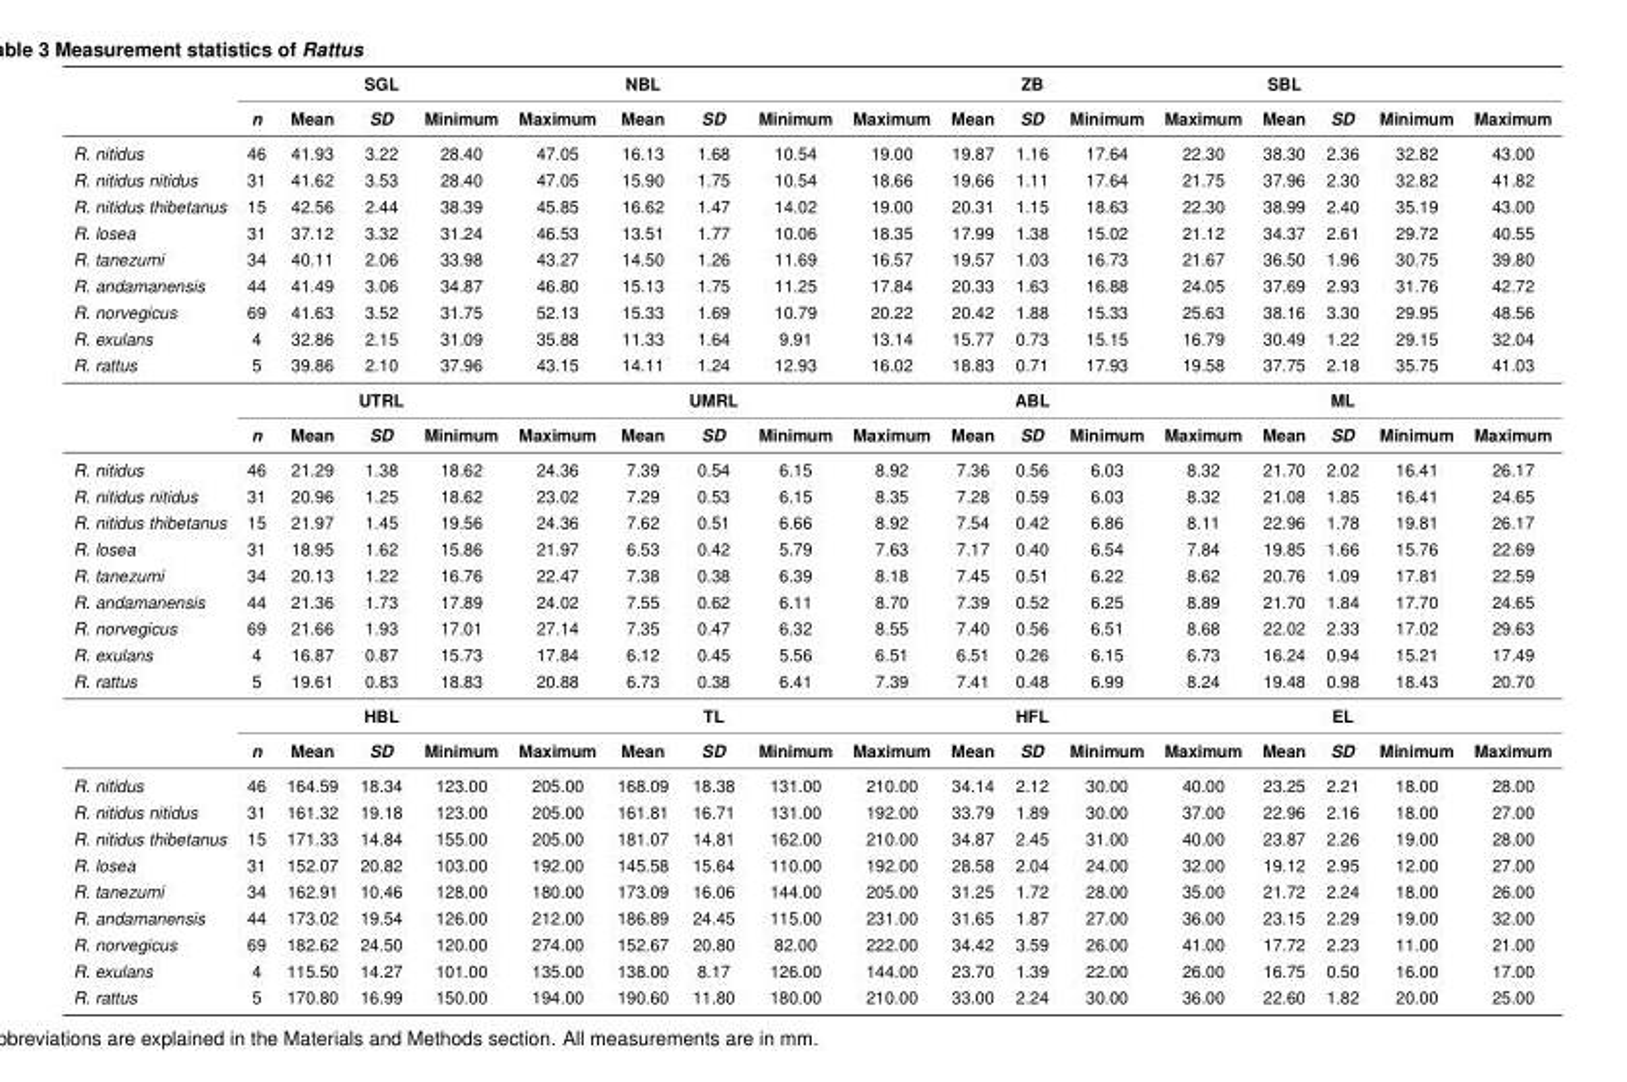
<table><thead><tr><td rowspan="2"></td><td rowspan="2">n</td><td colspan="4">SGL</td><td colspan="4">NBL</td><td colspan="4">ZB</td><td colspan="4">SBL</td></tr><tr><td>Mean</td><td>SD</td><td>Minimum</td><td>Maximum</td><td>Mean</td><td>SD</td><td>Minimum</td><td>Maximum</td><td>Mean</td><td>SD</td><td>Minimum</td><td>Maximum</td><td>Mean</td><td>SD</td><td>Minimum</td><td>Maximum</td></tr></thead><tbody><tr><td>R. nitidus</td><td>46</td><td>41.93</td><td>3.22</td><td>28.40</td><td>47.05</td><td>16.13</td><td>1.68</td><td>10.54</td><td>19.00</td><td>19.87</td><td>1.16</td><td>17.64</td><td>22.30</td><td>38.30</td><td>2.36</td><td>32.82</td><td>43.00</td></tr><tr><td>R. nitidus nitidus</td><td>31</td><td>41.62</td><td>3.53</td><td>28.40</td><td>47.05</td><td>15.90</td><td>1.75</td><td>10.54</td><td>18.66</td><td>19.66</td><td>1.11</td><td>17.64</td><td>21.75</td><td>37.96</td><td>2.30</td><td>32.82</td><td>41.82</td></tr><tr><td>R. nitidus thibetanus</td><td>15</td><td>42.56</td><td>2.44</td><td>38.39</td><td>45.85</td><td>16.62</td><td>1.47</td><td>14.02</td><td>19.00</td><td>20.31</td><td>1.15</td><td>18.63</td><td>22.30</td><td>38.99</td><td>2.40</td><td>35.19</td><td>43.00</td></tr><tr><td>R. losea</td><td>31</td><td>37.12</td><td>3.32</td><td>31.24</td><td>46.53</td><td>13.51</td><td>1.77</td><td>10.06</td><td>18.35</td><td>17.99</td><td>1.38</td><td>15.02</td><td>21.12</td><td>34.37</td><td>2.61</td><td>29.72</td><td>40.55</td></tr><tr><td>R. tanezumi</td><td>34</td><td>40.11</td><td>2.06</td><td>33.98</td><td>43.27</td><td>14.50</td><td>1.26</td><td>11.69</td><td>16.57</td><td>19.57</td><td>1.03</td><td>16.73</td><td>21.67</td><td>36.50</td><td>1.96</td><td>30.75</td><td>39.80</td></tr><tr><td>R. andamanensis</td><td>44</td><td>41.49</td><td>3.06</td><td>34.87</td><td>46.80</td><td>15.13</td><td>1.75</td><td>11.25</td><td>17.84</td><td>20.33</td><td>1.63</td><td>16.88</td><td>24.05</td><td>37.69</td><td>2.93</td><td>31.76</td><td>42.72</td></tr><tr><td>R. norvegicus</td><td>69</td><td>41.63</td><td>3.52</td><td>31.75</td><td>52.13</td><td>15.33</td><td>1.69</td><td>10.79</td><td>20.22</td><td>20.42</td><td>1.88</td><td>15.33</td><td>25.63</td><td>38.16</td><td>3.30</td><td>29.95</td><td>48.56</td></tr><tr><td>R. exulans</td><td>4</td><td>32.86</td><td>2.15</td><td>31.09</td><td>35.88</td><td>11.33</td><td>1.64</td><td>9.91</td><td>13.14</td><td>15.77</td><td>0.73</td><td>15.15</td><td>16.79</td><td>30.49</td><td>1.22</td><td>29.15</td><td>32.04</td></tr><tr><td rowspan="3">R. rattus</td><td>5</td><td>39.86</td><td>2.10</td><td>37.96</td><td>43.15</td><td>14.11</td><td>1.24</td><td>12.93</td><td>16.02</td><td>18.83</td><td>0.71</td><td>17.93</td><td>19.58</td><td>37.75</td><td>2.18</td><td>35.75</td><td>41.03</td></tr><tr><td></td><td colspan="4">UTRL</td><td colspan="4">UMRL</td><td colspan="4">ABL</td><td colspan="4">ML</td></tr><tr><td>n</td><td>Mean</td><td>SD</td><td>Minimum</td><td>Maximum</td><td>Mean</td><td>SD</td><td>Minimum</td><td>Maximum</td><td>Mean</td><td>SD</td><td>Minimum</td><td>Maximum</td><td>Mean</td><td>SD</td><td>Minimum</td><td>Maximum</td></tr><tr><td>R. nitidus</td><td>46</td><td>21.29</td><td>1.38</td><td>18.62</td><td>24.36</td><td>7.39</td><td>0.54</td><td>6.15</td><td>8.92</td><td>7.36</td><td>0.56</td><td>6.03</td><td>8.32</td><td>21.70</td><td>2.02</td><td>16.41</td><td>26.17</td></tr><tr><td>R. nitidus nitidus</td><td>31</td><td>20.96</td><td>1.25</td><td>18.62</td><td>23.02</td><td>7.29</td><td>0.53</td><td>6.15</td><td>8.35</td><td>7.28</td><td>0.59</td><td>6.03</td><td>8.32</td><td>21.08</td><td>1.85</td><td>16.41</td><td>24.65</td></tr><tr><td>R. nitidus thibetanus</td><td>15</td><td>21.97</td><td>1.45</td><td>19.56</td><td>24.36</td><td>7.62</td><td>0.51</td><td>6.66</td><td>8.92</td><td>7.54</td><td>0.42</td><td>6.86</td><td>8.11</td><td>22.96</td><td>1.78</td><td>19.81</td><td>26.17</td></tr><tr><td>R. losea</td><td>31</td><td>18.95</td><td>1.62</td><td>15.86</td><td>21.97</td><td>6.53</td><td>0.42</td><td>5.79</td><td>7.63</td><td>7.17</td><td>0.40</td><td>6.54</td><td>7.84</td><td>19.85</td><td>1.66</td><td>15.76</td><td>22.69</td></tr><tr><td>R. tanezumi</td><td>34</td><td>20.13</td><td>1.22</td><td>16.76</td><td>22.47</td><td>7.38</td><td>0.38</td><td>6.39</td><td>8.18</td><td>7.45</td><td>0.51</td><td>6.22</td><td>8.62</td><td>20.76</td><td>1.09</td><td>17.81</td><td>22.59</td></tr><tr><td>R. andamanensis</td><td>44</td><td>21.36</td><td>1.73</td><td>17.89</td><td>24.02</td><td>7.55</td><td>0.62</td><td>6.11</td><td>8.70</td><td>7.39</td><td>0.52</td><td>6.25</td><td>8.89</td><td>21.70</td><td>1.84</td><td>17.70</td><td>24.65</td></tr><tr><td>R. norvegicus</td><td>69</td><td>21.66</td><td>1.93</td><td>17.01</td><td>27.14</td><td>7.35</td><td>0.47</td><td>6.32</td><td>8.55</td><td>7.40</td><td>0.56</td><td>6.51</td><td>8.68</td><td>22.02</td><td>2.33</td><td>17.02</td><td>29.63</td></tr><tr><td>R. exulans</td><td>4</td><td>16.87</td><td>0.87</td><td>15.73</td><td>17.84</td><td>6.12</td><td>0.45</td><td>5.56</td><td>6.51</td><td>6.51</td><td>0.26</td><td>6.15</td><td>6.73</td><td>16.24</td><td>0.94</td><td>15.21</td><td>17.49</td></tr><tr><td rowspan="3">R. rattus</td><td>5</td><td>19.61</td><td>0.83</td><td>18.83</td><td>20.88</td><td>6.73</td><td>0.38</td><td>6.41</td><td>7.39</td><td>7.41</td><td>0.48</td><td>6.99</td><td>8.24</td><td>19.48</td><td>0.98</td><td>18.43</td><td>20.70</td></tr><tr><td></td><td colspan="4">HBL</td><td colspan="4">TL</td><td colspan="4">HFL</td><td colspan="4">EL</td></tr><tr><td>n</td><td>Mean</td><td>SD</td><td>Minimum</td><td>Maximum</td><td>Mean</td><td>SD</td><td>Minimum</td><td>Maximum</td><td>Mean</td><td>SD</td><td>Minimum</td><td>Maximum</td><td>Mean</td><td>SD</td><td>Minimum</td><td>Maximum</td></tr><tr><td>R. nitidus</td><td>46</td><td>164.59</td><td>18.34</td><td>123.00</td><td>205.00</td><td>168.09</td><td>18.38</td><td>131.00</td><td>210.00</td><td>34.14</td><td>2.12</td><td>30.00</td><td>40.00</td><td>23.25</td><td>2.21</td><td>18.00</td><td>28.00</td></tr><tr><td>R. nitidus nitidus</td><td>31</td><td>161.32</td><td>19.18</td><td>123.00</td><td>205.00</td><td>161.81</td><td>16.71</td><td>131.00</td><td>192.00</td><td>33.79</td><td>1.89</td><td>30.00</td><td>37.00</td><td>22.96</td><td>2.16</td><td>18.00</td><td>27.00</td></tr><tr><td>R. nitidus thibetanus</td><td>15</td><td>171.33</td><td>14.84</td><td>155.00</td><td>205.00</td><td>181.07</td><td>14.81</td><td>162.00</td><td>210.00</td><td>34.87</td><td>2.45</td><td>31.00</td><td>40.00</td><td>23.87</td><td>2.26</td><td>19.00</td><td>28.00</td></tr><tr><td>R. losea</td><td>31</td><td>152.07</td><td>20.82</td><td>103.00</td><td>192.00</td><td>145.58</td><td>15.64</td><td>110.00</td><td>192.00</td><td>28.58</td><td>2.04</td><td>24.00</td><td>32.00</td><td>19.12</td><td>2.95</td><td>12.00</td><td>27.00</td></tr><tr><td>R. tanezumi</td><td>34</td><td>162.91</td><td>10.46</td><td>128.00</td><td>180.00</td><td>173.09</td><td>16.06</td><td>144.00</td><td>205.00</td><td>31.25</td><td>1.72</td><td>28.00</td><td>35.00</td><td>21.72</td><td>2.24</td><td>18.00</td><td>26.00</td></tr><tr><td>R. andamanensis</td><td>44</td><td>173.02</td><td>19.54</td><td>126.00</td><td>212.00</td><td>186.89</td><td>24.45</td><td>115.00</td><td>231.00</td><td>31.65</td><td>1.87</td><td>27.00</td><td>36.00</td><td>23.15</td><td>2.29</td><td>19.00</td><td>32.00</td></tr><tr><td>R. norvegicus</td><td>69</td><td>182.62</td><td>24.50</td><td>120.00</td><td>274.00</td><td>152.67</td><td>20.80</td><td>82.00</td><td>222.00</td><td>34.42</td><td>3.59</td><td>26.00</td><td>41.00</td><td>17.72</td><td>2.23</td><td>11.00</td><td>21.00</td></tr><tr><td>R. exulans</td><td>4</td><td>115.50</td><td>14.27</td><td>101.00</td><td>135.00</td><td>138.00</td><td>8.17</td><td>126.00</td><td>144.00</td><td>23.70</td><td>1.39</td><td>22.00</td><td>26.00</td><td>16.75</td><td>0.50</td><td>16.00</td><td>17.00</td></tr><tr><td>R. rattus</td><td>5</td><td>170.80</td><td>16.99</td><td>150.00</td><td>194.00</td><td>190.60</td><td>11.80</td><td>180.00</td><td>210.00</td><td>33.00</td><td>2.24</td><td>30.00</td><td>36.00</td><td>22.60</td><td>1.82</td><td>20.00</td><td>25.00</td></tr></tbody></table>